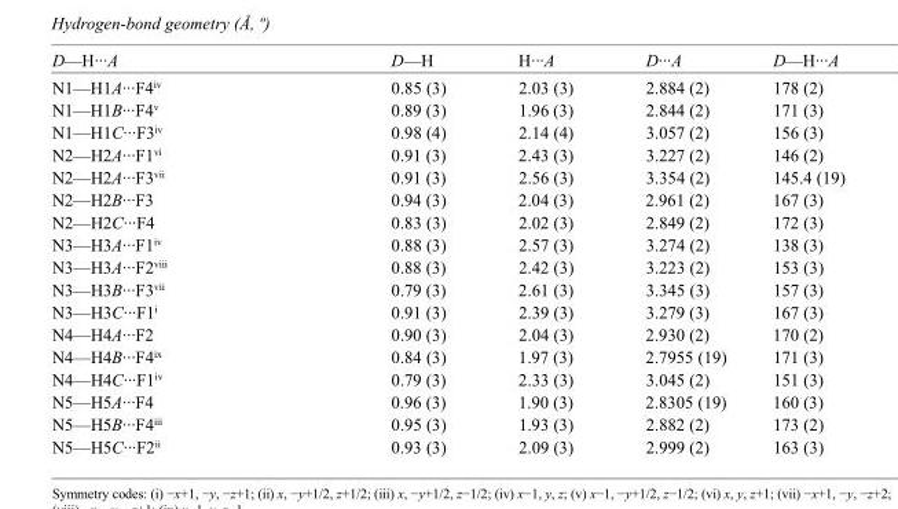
<table><tbody><tr><td>D—H···A</td><td>D—H</td><td>H···A</td><td>D···A</td><td>D—H···A</td></tr><tr><td>N1—H1A···F4<sup>iv</sup></td><td>0.85 (3)</td><td>2.03 (3)</td><td>2.884 (2)</td><td>178 (2)</td></tr><tr><td>N1—H1B···F4<sup>v</sup></td><td>0.89 (3)</td><td>1.96 (3)</td><td>2.844 (2)</td><td>171 (3)</td></tr><tr><td>N1—H1C···F3<sup>iv</sup></td><td>0.98 (4)</td><td>2.14 (4)</td><td>3.057 (2)</td><td>156 (3)</td></tr><tr><td>N2—H2A···F1<sup>vi</sup></td><td>0.91 (3)</td><td>2.43 (3)</td><td>3.227 (2)</td><td>146 (2)</td></tr><tr><td>N2—H2A···F3<sup>vii</sup></td><td>0.91 (3)</td><td>2.56 (3)</td><td>3.354 (2)</td><td>145.4 (19)</td></tr><tr><td>N2—H2B···F3</td><td>0.94 (3)</td><td>2.04 (3)</td><td>2.961 (2)</td><td>167 (3)</td></tr><tr><td>N2—H2C···F4</td><td>0.83 (3)</td><td>2.02 (3)</td><td>2.849 (2)</td><td>172 (3)</td></tr><tr><td>N3—H3A···F1<sup>iv</sup></td><td>0.88 (3)</td><td>2.57 (3)</td><td>3.274 (2)</td><td>138 (3)</td></tr><tr><td>N3—H3A···F2<sup>viii</sup></td><td>0.88 (3)</td><td>2.42 (3)</td><td>3.223 (2)</td><td>153 (3)</td></tr><tr><td>N3—H3B···F3<sup>vii</sup></td><td>0.79 (3)</td><td>2.61 (3)</td><td>3.345 (3)</td><td>157 (3)</td></tr><tr><td>N3—H3C···F1<sup>i</sup></td><td>0.91 (3)</td><td>2.39 (3)</td><td>3.279 (3)</td><td>167 (3)</td></tr><tr><td>N4—H4A···F2</td><td>0.90 (3)</td><td>2.04 (3)</td><td>2.930 (2)</td><td>170 (2)</td></tr><tr><td>N4—H4B···F4<sup>ix</sup></td><td>0.84 (3)</td><td>1.97 (3)</td><td>2.7955 (19)</td><td>171 (3)</td></tr><tr><td>N4—H4C···F1<sup>iv</sup></td><td>0.79 (3)</td><td>2.33 (3)</td><td>3.045 (2)</td><td>151 (3)</td></tr><tr><td>N5—H5A···F4</td><td>0.96 (3)</td><td>1.90 (3)</td><td>2.8305 (19)</td><td>160 (3)</td></tr><tr><td>N5—H5B···F4<sup>iii</sup></td><td>0.95 (3)</td><td>1.93 (3)</td><td>2.882 (2)</td><td>173 (2)</td></tr><tr><td>N5—H5C···F2<sup>ii</sup></td><td>0.93 (3)</td><td>2.09 (3)</td><td>2.999 (2)</td><td>163 (3)</td></tr></tbody></table>